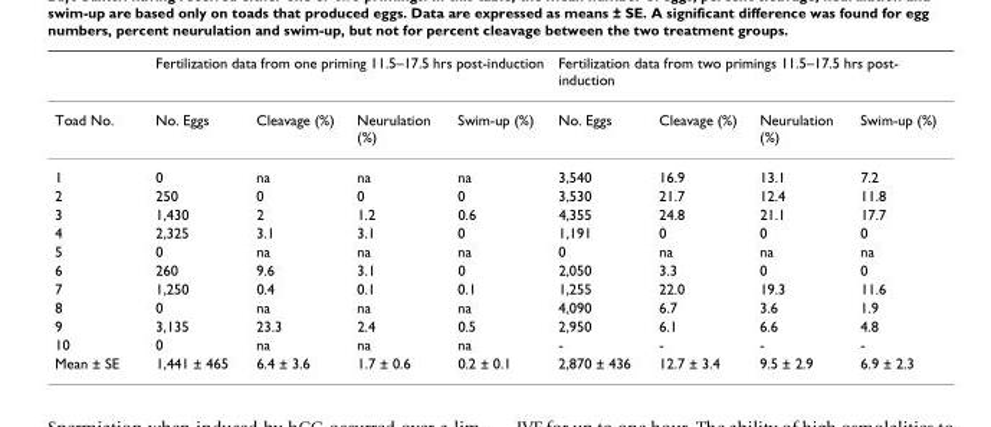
<table><thead><tr><td rowspan="2">Toad No.</td><td colspan="4">Fertilization data from one priming 11.5–17.5 hrs post-induction</td><td colspan="4">Fertilization data from two primings 11.5–17.5 hrs post- induction</td></tr><tr><td>No. Eggs</td><td>Cleavage (%)</td><td>Neurulation (%)</td><td>Swim-up (%)</td><td>No. Eggs</td><td>Cleavage (%)</td><td>Neurulation (%)</td><td>Swim-up (%)</td></tr></thead><tbody><tr><td>1</td><td>0</td><td>na</td><td>na</td><td>na</td><td>3,540</td><td>16.9</td><td>13.1</td><td>7.2</td></tr><tr><td>2</td><td>250</td><td>0</td><td>0</td><td>0</td><td>3,530</td><td>21.7</td><td>12.4</td><td>11.8</td></tr><tr><td>3</td><td>1,430</td><td>2</td><td>1.2</td><td>0.6</td><td>4,355</td><td>24.8</td><td>21.1</td><td>17.7</td></tr><tr><td>4</td><td>2,325</td><td>3.1</td><td>3.1</td><td>0</td><td>1,191</td><td>0</td><td>0</td><td>0</td></tr><tr><td>5</td><td>0</td><td>na</td><td>na</td><td>na</td><td>0</td><td>na</td><td>na</td><td>na</td></tr><tr><td>6</td><td>260</td><td>9.6</td><td>3.1</td><td>0</td><td>2,050</td><td>3.3</td><td>0</td><td>0</td></tr><tr><td>7</td><td>1,250</td><td>0.4</td><td>0.1</td><td>0.1</td><td>1,255</td><td>22.0</td><td>19.3</td><td>11.6</td></tr><tr><td>8</td><td>0</td><td>na</td><td>na</td><td>na</td><td>4,090</td><td>6.7</td><td>3.6</td><td>1.9</td></tr><tr><td>9</td><td>3,135</td><td>23.3</td><td>2.4</td><td>0.5</td><td>2,950</td><td>6.1</td><td>6.6</td><td>4.8</td></tr><tr><td>10</td><td>0</td><td>na</td><td>na</td><td>na</td><td>-</td><td>-</td><td>-</td><td>-</td></tr><tr><td>Mean ± SE</td><td>1,441 ± 465</td><td>6.4 ± 3.6</td><td>1.7 ± 0.6</td><td>0.2 ± 0.1</td><td>2,870 ± 436</td><td>12.7 ± 3.4</td><td>9.5 ± 2.9</td><td>6.9 ± 2.3</td></tr></tbody></table>